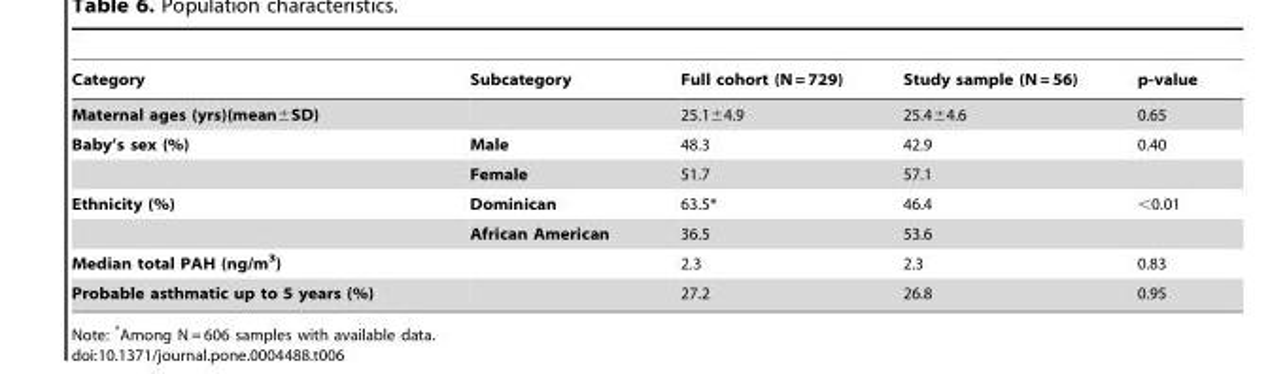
<table><thead><tr><td>Category</td><td>Subcategory</td><td>Full cohort (N = 729)</td><td>Study sample (N = 56)</td><td>p-value</td></tr></thead><tbody><tr><td>Maternal ages (yrs)(mean±SD)</td><td></td><td>25.1±4.9</td><td>25.4±4.6</td><td>0.65</td></tr><tr><td rowspan="2">Baby’s sex (%)</td><td>Male</td><td>48.3</td><td>42.9</td><td>0.40</td></tr><tr><td>Female</td><td>51.7</td><td>57.1</td><td></td></tr><tr><td rowspan="2">Ethnicity (%)</td><td>Dominican</td><td>63.5*</td><td>46.4</td><td>&lt;0.01</td></tr><tr><td>African American</td><td>36.5</td><td>53.6</td><td></td></tr><tr><td>Median total PAH (ng/m<sup>3</sup>)</td><td></td><td>2.3</td><td>2.3</td><td>0.83</td></tr><tr><td>Probable asthmatic up to 5 years (%)</td><td></td><td>27.2</td><td>26.8</td><td>0.95</td></tr></tbody></table>